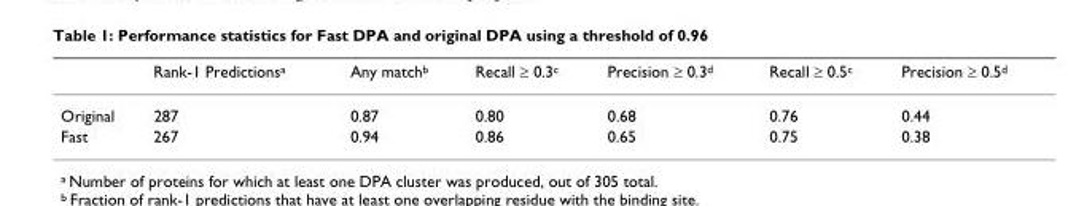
<table><thead><tr><td></td><td>Rank-1 Predictions<sup>a</sup></td><td>Any match<sup>b</sup></td><td>Recall ≥ 0.3<sup>c</sup></td><td>Precision ≥ 0.3<sup>d</sup></td><td>Recall ≥ 0.5<sup>c</sup></td><td>Precision ≥ 0.5<sup>d</sup></td></tr></thead><tbody><tr><td>Original</td><td>287</td><td>0.87</td><td>0.80</td><td>0.68</td><td>0.76</td><td>0.44</td></tr><tr><td>Fast</td><td>267</td><td>0.94</td><td>0.86</td><td>0.65</td><td>0.75</td><td>0.38</td></tr></tbody></table>